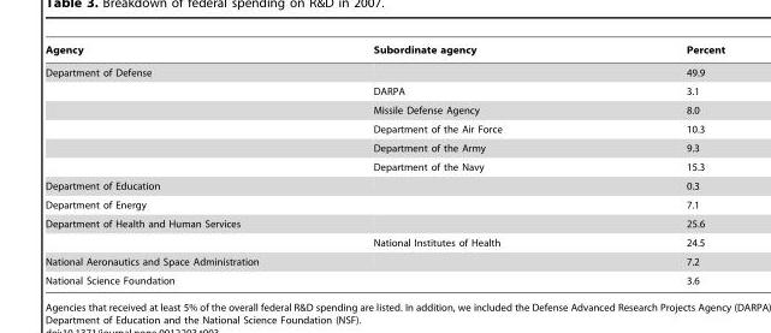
<table><thead><tr><td>Agency</td><td>Subordinate agency</td><td>Percent</td></tr></thead><tbody><tr><td rowspan="6">Department of Defense</td><td></td><td>49.9</td></tr><tr><td>DARPA</td><td>3.1</td></tr><tr><td>Missile Defense Agency</td><td>8.0</td></tr><tr><td>Department of the Air Force</td><td>10.3</td></tr><tr><td>Department of the Army</td><td>9.3</td></tr><tr><td>Department of the Navy</td><td>15.3</td></tr><tr><td>Department of Education</td><td></td><td>0.3</td></tr><tr><td>Department of Energy</td><td></td><td>7.1</td></tr><tr><td rowspan="2">Department of Health and Human Services</td><td></td><td>25.6</td></tr><tr><td>National Institutes of Health</td><td>24.5</td></tr><tr><td>National Aeronautics and Space Administration</td><td></td><td>7.2</td></tr><tr><td>National Science Foundation</td><td></td><td>3.6</td></tr></tbody></table>